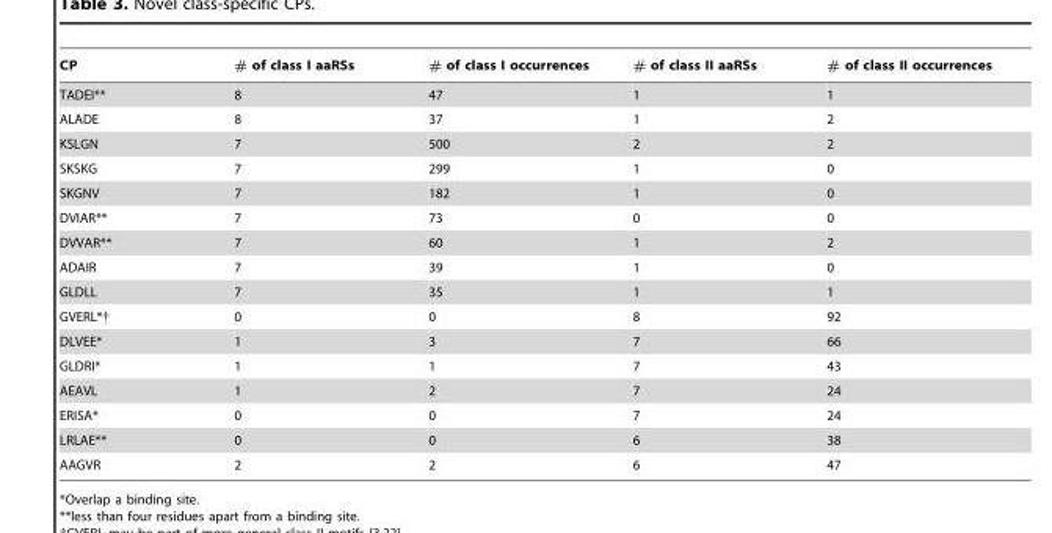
<table><thead><tr><td>CP</td><td># of class I aaRSs</td><td># of class I occurrences</td><td># of class II aaRSs</td><td># of class II occurrences</td></tr></thead><tbody><tr><td>TADEI**</td><td>8</td><td>47</td><td>1</td><td>1</td></tr><tr><td>ALADE</td><td>8</td><td>37</td><td>1</td><td>2</td></tr><tr><td>KSLGN</td><td>7</td><td>500</td><td>2</td><td>2</td></tr><tr><td>SKSKG</td><td>7</td><td>299</td><td>1</td><td>0</td></tr><tr><td>SKGNV</td><td>7</td><td>182</td><td>1</td><td>0</td></tr><tr><td>DVIAR**</td><td>7</td><td>73</td><td>0</td><td>0</td></tr><tr><td>DVVAR**</td><td>7</td><td>60</td><td>1</td><td>2</td></tr><tr><td>ADAIR</td><td>7</td><td>39</td><td>1</td><td>0</td></tr><tr><td>GLDLL</td><td>7</td><td>35</td><td>1</td><td>1</td></tr><tr><td>GVERL*†</td><td>0</td><td>0</td><td>8</td><td>92</td></tr><tr><td>DLVEE*</td><td>1</td><td>3</td><td>7</td><td>66</td></tr><tr><td>GLDRI*</td><td>1</td><td>1</td><td>7</td><td>43</td></tr><tr><td>AEAVL</td><td>1</td><td>2</td><td>7</td><td>24</td></tr><tr><td>ERISA*</td><td>0</td><td>0</td><td>7</td><td>24</td></tr><tr><td>LRLAE**</td><td>0</td><td>0</td><td>6</td><td>38</td></tr><tr><td>AAGVR</td><td>2</td><td>2</td><td>6</td><td>47</td></tr></tbody></table>